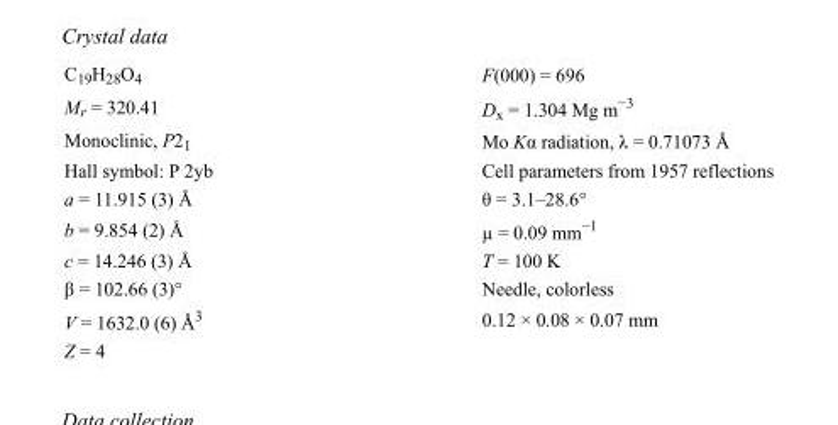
<table><tbody><tr><td>C<sub>19</sub>H<sub>28</sub>O<sub>4</sub></td><td>F(000) = 696</td></tr><tr><td>M<sub>r</sub> = 320.41</td><td>D<sub>x</sub> = 1.304 Mg m<sup>−3</sup></td></tr><tr><td>Monoclinic, P2<sub>1</sub></td><td>Mo Kα radiation, λ = 0.71073 Å</td></tr><tr><td>Hall symbol: P 2yb</td><td>Cell parameters from 1957 reflections</td></tr><tr><td>a = 11.915 (3) Å</td><td>θ = 3.1–28.6°</td></tr><tr><td>b = 9.854 (2) Å</td><td>µ = 0.09 mm<sup>−1</sup></td></tr><tr><td>c = 14.246 (3) Å</td><td>T = 100 K</td></tr><tr><td>β = 102.66 (3)°</td><td>Needle, colorless</td></tr><tr><td>V = 1632.0 (6) Å<sup>3</sup></td><td>0.12 × 0.08 × 0.07 mm</td></tr><tr><td>Z = 4</td><td></td></tr></tbody></table>